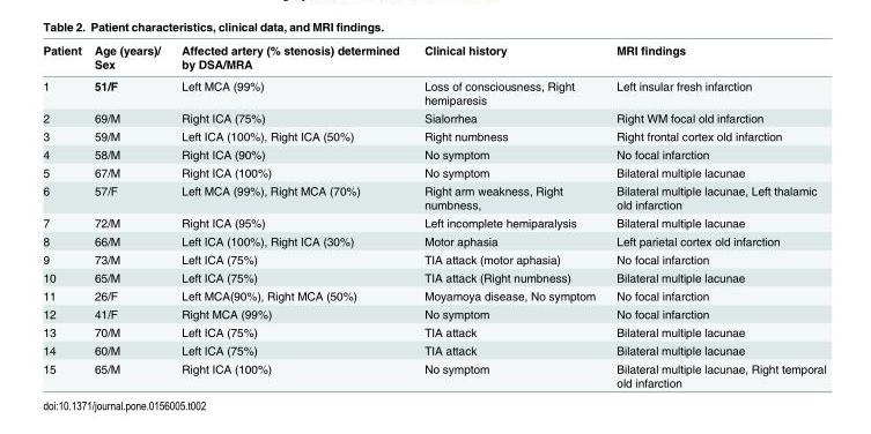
<table><thead><tr><td>Patient</td><td>Age (years)/ Sex</td><td>Affected artery (% stenosis) determined by DSA/MRA</td><td>Clinical history</td><td>MRI findings</td></tr></thead><tbody><tr><td>1</td><td>51/F</td><td>Left MCA (99%)</td><td>Loss of consciousness, Right hemiparesis</td><td>Left insular fresh infarction</td></tr><tr><td>2</td><td>69/M</td><td>Right ICA (75%)</td><td>Sialorrhea</td><td>Right WM focal old infarction</td></tr><tr><td>3</td><td>59/M</td><td>Left ICA (100%), Right ICA (50%)</td><td>Right numbness</td><td>Right frontal cortex old infarction</td></tr><tr><td>4</td><td>58/M</td><td>Right ICA (90%)</td><td>No symptom</td><td>No focal infarction</td></tr><tr><td>5</td><td>67/M</td><td>Right ICA (100%)</td><td>No symptom</td><td>Bilateral multiple lacunae</td></tr><tr><td>6</td><td>57/F</td><td>Left MCA (99%), Right MCA (70%)</td><td>Right arm weakness, Right numbness,</td><td>Bilateral multiple lacunae, Left thalamic old infarction</td></tr><tr><td>7</td><td>72/M</td><td>Right ICA (95%)</td><td>Left incomplete hemiparalysis</td><td>Bilateral multiple lacunae</td></tr><tr><td>8</td><td>66/M</td><td>Left ICA (100%), Right ICA (30%)</td><td>Motor aphasia</td><td>Left parietal cortex old infarction</td></tr><tr><td>9</td><td>73/M</td><td>Left ICA (75%)</td><td>TIA attack (motor aphasia)</td><td>No focal infarction</td></tr><tr><td>10</td><td>65/M</td><td>Left ICA (75%)</td><td>TIA attack (Right numbness)</td><td>Bilateral multiple lacunae</td></tr><tr><td>11</td><td>26/F</td><td>Left MCA(90%), Right MCA (50%)</td><td>Moyamoya disease, No symptom</td><td>No focal infarction</td></tr><tr><td>12</td><td>41/F</td><td>Right MCA (99%)</td><td>No symptom</td><td>No focal infarction</td></tr><tr><td>13</td><td>70/M</td><td>Left ICA (75%)</td><td>TIA attack</td><td>Bilateral multiple lacunae</td></tr><tr><td>14</td><td>60/M</td><td>Left ICA (75%)</td><td>TIA attack</td><td>Bilateral multiple lacunae</td></tr><tr><td>15</td><td>65/M</td><td>Right ICA (100%)</td><td>No symptom</td><td>Bilateral multiple lacunae, Right temporal old infarction</td></tr></tbody></table>